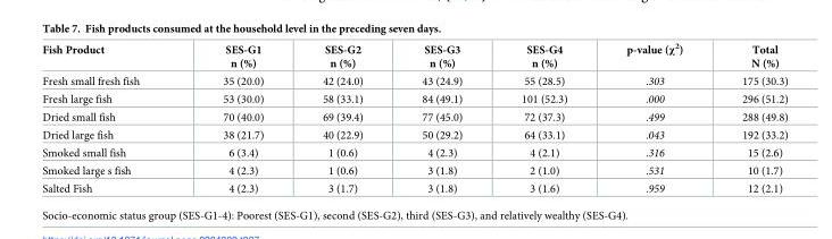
<table><thead><tr><td>Fish Product</td><td>SES-G1 n (%)</td><td>SES-G2 n (%)</td><td>SES-G3 n (%)</td><td>SES-G4 n (%)</td><td>p-value (χ<sup>2</sup>)</td><td>Total N (%)</td></tr></thead><tbody><tr><td>Fresh small fresh fish</td><td>35 (20.0)</td><td>42 (24.0)</td><td>43 (24.9)</td><td>55 (28.5)</td><td>.303</td><td>175 (30.3)</td></tr><tr><td>Fresh large fish</td><td>53 (30.0)</td><td>58 (33.1)</td><td>84 (49.1)</td><td>101 (52.3)</td><td>.000</td><td>296 (51.2)</td></tr><tr><td>Dried small fish</td><td>70 (40.0)</td><td>69 (39.4)</td><td>77 (45.0)</td><td>72 (37.3)</td><td>.499</td><td>288 (49.8)</td></tr><tr><td>Dried large fish</td><td>38 (21.7)</td><td>40 (22.9)</td><td>50 (29.2)</td><td>64 (33.1)</td><td>.043</td><td>192 (33.2)</td></tr><tr><td>Smoked small fish</td><td>6 (3.4)</td><td>1 (0.6)</td><td>4 (2.3)</td><td>4 (2.1)</td><td>.316</td><td>15 (2.6)</td></tr><tr><td>Smoked large s fish</td><td>4 (2.3)</td><td>1 (0.6)</td><td>3 (1.8)</td><td>2 (1.0)</td><td>.531</td><td>10 (1.7)</td></tr><tr><td>Salted Fish</td><td>4 (2.3)</td><td>3 (1.7)</td><td>3 (1.8)</td><td>3 (1.6)</td><td>.959</td><td>12 (2.1)</td></tr></tbody></table>